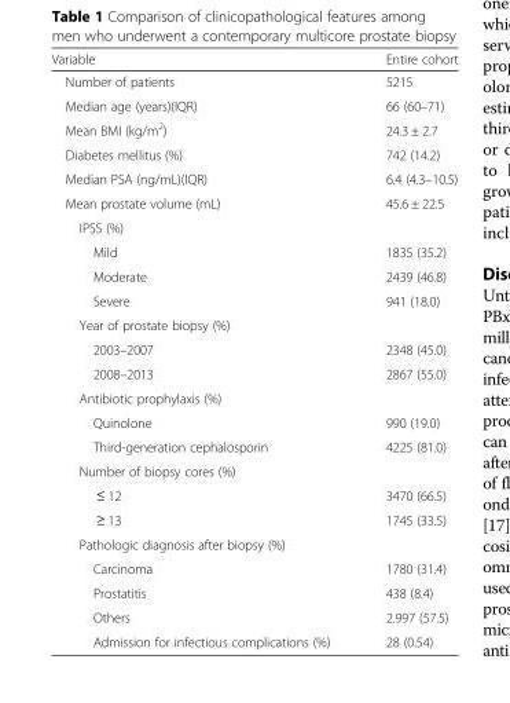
<table><thead><tr><td>Variable</td><td>Entire cohort</td></tr></thead><tbody><tr><td>Number of patients</td><td>5215</td></tr><tr><td>Median age (years)(IQR)</td><td>66 (60–71)</td></tr><tr><td>Mean BMI (kg/m<sup>2</sup>)</td><td>24.3 ± 2.7</td></tr><tr><td>Diabetes mellitus (%)</td><td>742 (14.2)</td></tr><tr><td>Median PSA (ng/mL)(IQR)</td><td>6.4 (4.3–10.5)</td></tr><tr><td>Mean prostate volume (mL)</td><td>45.6 ± 22.5</td></tr><tr><td colspan="2">IPSS (%)</td></tr><tr><td>Mild</td><td>1835 (35.2)</td></tr><tr><td>Moderate</td><td>2439 (46.8)</td></tr><tr><td>Severe</td><td>941 (18.0)</td></tr><tr><td colspan="2">Year of prostate biopsy (%)</td></tr><tr><td>2003–2007</td><td>2348 (45.0)</td></tr><tr><td>2008–2013</td><td>2867 (55.0)</td></tr><tr><td colspan="2">Antibiotic prophylaxis (%)</td></tr><tr><td>Quinolone</td><td>990 (19.0)</td></tr><tr><td>Third-generation cephalosporin</td><td>4225 (81.0)</td></tr><tr><td colspan="2">Number of biopsy cores (%)</td></tr><tr><td>≤ 12</td><td>3470 (66.5)</td></tr><tr><td>≥ 13</td><td>1745 (33.5)</td></tr><tr><td colspan="2">Pathologic diagnosis after biopsy (%)</td></tr><tr><td>Carcinoma</td><td>1780 (31.4)</td></tr><tr><td>Prostatitis</td><td>438 (8.4)</td></tr><tr><td>Others</td><td>2.997 (57.5)</td></tr><tr><td>Admission for infectious complications (%)</td><td>28 (0.54)</td></tr></tbody></table>